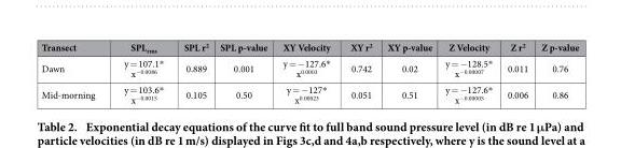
<table><thead><tr><td>Transect</td><td>SPL<sub>rms</sub></td><td>SPL r<sup>2</sup></td><td>SPL p-value</td><td>XY Velocity</td><td>XY r<sup>2</sup></td><td>XY p-value</td><td>Z Velocity</td><td>Z r<sup>2</sup></td><td>Z p-value</td></tr></thead><tbody><tr><td>Dawn</td><td>y = 107.1* x<sup>−0.0086</sup></td><td>0.889</td><td>0.001</td><td>y = − 127.6* x<sup>0.0003</sup></td><td>0.742</td><td>0.02</td><td>y = − 128.5* x<sup>−0.00007</sup></td><td>0.011</td><td>0.76</td></tr><tr><td>Mid-morning</td><td>y = 103.6* x<sup>−0.0015</sup></td><td>0.105</td><td>0.50</td><td>y = − 127* x<sup>0.00023</sup></td><td>0.051</td><td>0.51</td><td>y = − 127.6* x<sup>−0.00005</sup></td><td>0.006</td><td>0.86</td></tr></tbody></table>